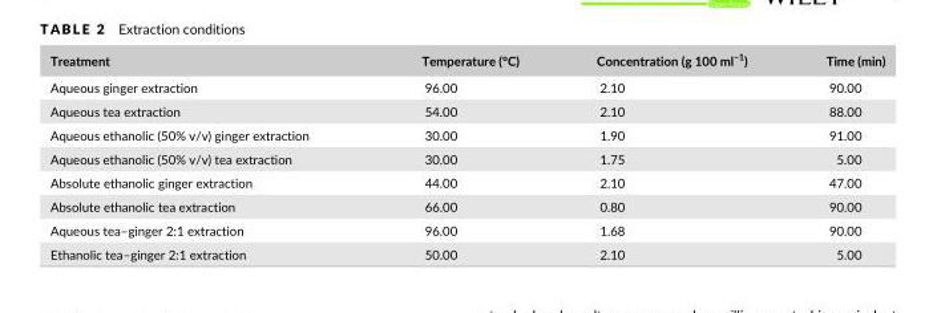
<table><thead><tr><td>Treatment</td><td>Temperature (°C)</td><td>Concentration (g 100 ml<sup>−1</sup>)</td><td>Time (min)</td></tr></thead><tbody><tr><td>Aqueous ginger extraction</td><td>96.00</td><td>2.10</td><td>90.00</td></tr><tr><td>Aqueous tea extraction</td><td>54.00</td><td>2.10</td><td>88.00</td></tr><tr><td>Aqueous ethanolic (50% v/v) ginger extraction</td><td>30.00</td><td>1.90</td><td>91.00</td></tr><tr><td>Aqueous ethanolic (50% v/v) tea extraction</td><td>30.00</td><td>1.75</td><td>5.00</td></tr><tr><td>Absolute ethanolic ginger extraction</td><td>44.00</td><td>2.10</td><td>47.00</td></tr><tr><td>Absolute ethanolic tea extraction</td><td>66.00</td><td>0.80</td><td>90.00</td></tr><tr><td>Aqueous tea–ginger 2:1 extraction</td><td>96.00</td><td>1.68</td><td>90.00</td></tr><tr><td>Ethanolic tea–ginger 2:1 extraction</td><td>50.00</td><td>2.10</td><td>5.00</td></tr></tbody></table>